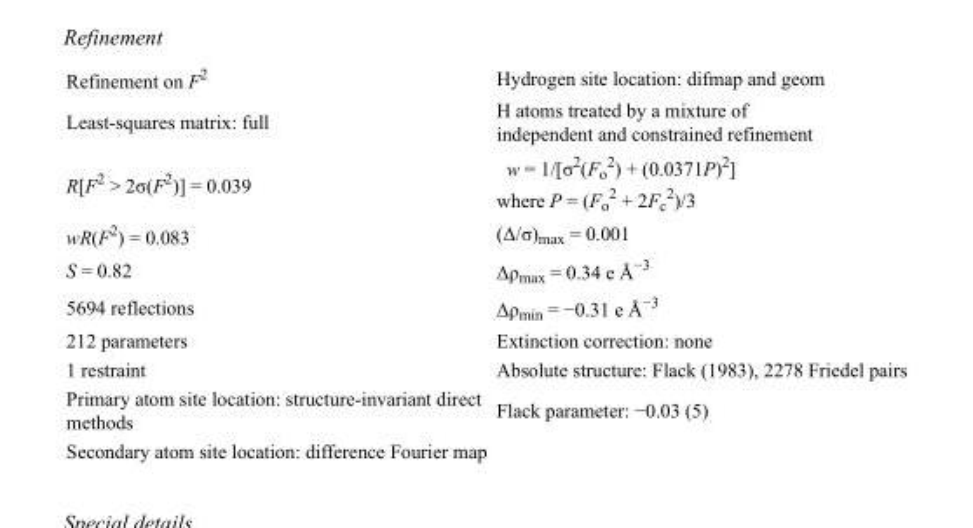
<table><tbody><tr><td>Refinement on F<sup>2</sup></td><td>Hydrogen site location: difmap and geom</td></tr><tr><td>Least-squares matrix: full</td><td>H atoms treated by a mixture of independent and constrained refinement</td></tr><tr><td>R[F<sup>2</sup> &gt; 2σ(F<sup>2</sup>)] = 0.039</td><td>w = 1/[σ<sup>2</sup>(F<sub>o</sub> <sup>2</sup>) + (0.0371P)<sup>2</sup>] where P = (F<sub>o</sub> <sup>2</sup> + 2F<sub>c</sub> <sup>2</sup>)/3</td></tr><tr><td>wR(F<sup>2</sup>) = 0.083</td><td>(Δ/σ)<sub>max</sub> = 0.001</td></tr><tr><td>S = 0.82</td><td>Δρ<sub>max</sub> = 0.34 e Å<sup>−3</sup></td></tr><tr><td>5694 reflections</td><td>Δρ<sub>min</sub> = −0.31 e Å<sup>−3</sup></td></tr><tr><td>212 parameters</td><td>Extinction correction: none</td></tr><tr><td>1 restraint</td><td>Absolute structure: Flack (1983), 2278 Friedel pairs</td></tr><tr><td>Primary atom site location: structure-invariant direct methods</td><td>Flack parameter: −0.03 (5)</td></tr><tr><td>Secondary atom site location: difference Fourier map</td><td></td></tr></tbody></table>